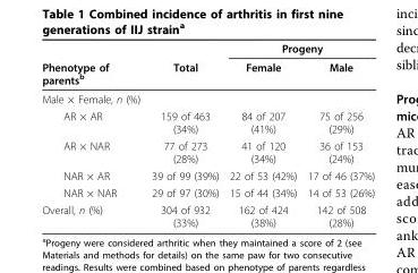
<table><thead><tr><td rowspan="2">Phenotype of parents<sup>b</sup></td><td rowspan="2">Total</td><td colspan="2">Progeny</td></tr><tr><td>Female</td><td>Male</td></tr></thead><tbody><tr><td colspan="4">Male × Female, n (%)</td></tr><tr><td>AR × AR</td><td>159 of 463 (34%)</td><td>84 of 207 (41%)</td><td>75 of 256 (29%)</td></tr><tr><td>AR × NAR</td><td>77 of 273 (28%)</td><td>41 of 120 (34%)</td><td>36 of 153 (24%)</td></tr><tr><td>NAR × AR</td><td>39 of 99 (39%)</td><td>22 of 53 (42%)</td><td>17 of 46 (37%)</td></tr><tr><td>NAR × NAR</td><td>29 of 97 (30%)</td><td>15 of 44 (34%)</td><td>14 of 53 (26%)</td></tr><tr><td>Overall, n (%)</td><td>304 of 932 (33%)</td><td>162 of 424 (38%)</td><td>142 of 508 (28%)</td></tr></tbody></table>